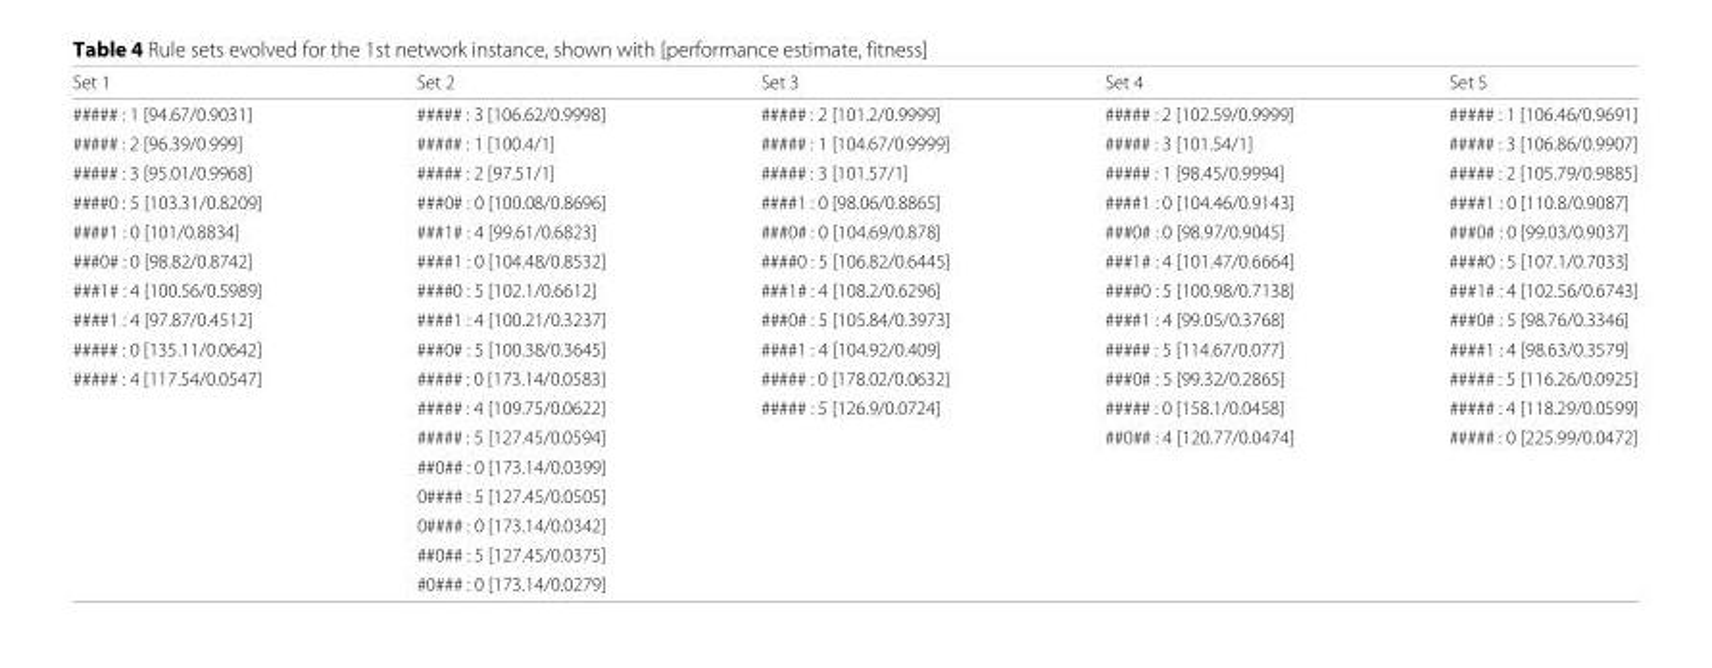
<table><thead><tr><td>Set 1</td><td>Set 2</td><td>Set 3</td><td>Set 4</td><td>Set 5</td></tr></thead><tbody><tr><td>##### : 1 [94.67/0.9031]</td><td>##### : 3 [106.62/0.9998]</td><td>##### : 2 [101.2/0.9999]</td><td>##### : 2 [102.59/0.9999]</td><td>##### : 1 [106.46/0.9691]</td></tr><tr><td>##### : 2 [96.39/0.999]</td><td>##### : 1 [100.4/1]</td><td>##### : 1 [104.67/0.9999]</td><td>##### : 3 [101.54/1]</td><td>##### : 3 [106.86/0.9907]</td></tr><tr><td>##### : 3 [95.01/0.9968]</td><td>##### : 2 [97.51/1]</td><td>##### : 3 [101.57/1]</td><td>##### : 1 [98.45/0.9994]</td><td>##### : 2 [105.79/0.9885]</td></tr><tr><td>####0 : 5 [103.31/0.8209]</td><td>###0# : 0 [100.08/0.8696]</td><td>####1 : 0 [98.06/0.8865]</td><td>####1 : 0 [104.46/0.9143]</td><td>####1 : 0 [110.8/0.9087]</td></tr><tr><td>####1 : 0 [101/0.8834]</td><td>###1# : 4 [99.61/0.6823]</td><td>###0# : 0 [104.69/0.878]</td><td>###0# : 0 [98.97/0.9045]</td><td>###0# : 0 [99.03/0.9037]</td></tr><tr><td>###0# : 0 [98.82/0.8742]</td><td>####1 : 0 [104.48/0.8532]</td><td>####0 : 5 [106.82/0.6445]</td><td>###1# : 4 [101.47/0.6664]</td><td>####0 : 5 [107.1/0.7033]</td></tr><tr><td>###1# : 4 [100.56/0.5989]</td><td>####0 : 5 [102.1/0.6612]</td><td>###1# : 4 [108.2/0.6296]</td><td>####0 : 5 [100.98/0.7138]</td><td>###1# : 4 [102.56/0.6743]</td></tr><tr><td>####1 : 4 [97.87/0.4512]</td><td>####1 : 4 [100.21/0.3237]</td><td>###0# : 5 [105.84/0.3973]</td><td>####1 : 4 [99.05/0.3768]</td><td>###0# : 5 [98.76/0.3346]</td></tr><tr><td>##### : 0 [135.11/0.0642]</td><td>###0# : 5 [100.38/0.3645]</td><td>####1 : 4 [104.92/0.409]</td><td>##### : 5 [114.67/0.077]</td><td>####1 : 4 [98.63/0.3579]</td></tr><tr><td rowspan="8">##### : 4 [117.54/0.0547]</td><td>##### : 0 [173.14/0.0583]</td><td>##### : 0 [178.02/0.0632]</td><td>###0# : 5 [99.32/0.2865]</td><td>##### : 5 [116.26/0.0925]</td></tr><tr><td>##### : 4 [109.75/0.0622]</td><td>##### : 5 [126.9/0.0724]</td><td>##### : 0 [158.1/0.0458]</td><td>##### : 4 [118.29/0.0599]</td></tr><tr><td>##### : 5 [127.45/0.0594]</td><td></td><td>##0## : 4 [120.77/0.0474]</td><td>##### : 0 [225.99/0.0472]</td></tr><tr><td>##0## : 0 [173.14/0.0399]</td><td></td><td></td><td></td></tr><tr><td>0#### : 5 [127.45/0.0505]</td><td></td><td></td><td></td></tr><tr><td>0#### : 0 [173.14/0.0342]</td><td></td><td></td><td></td></tr><tr><td>##0## : 5 [127.45/0.0375]</td><td></td><td></td><td></td></tr><tr><td>#0### : 0 [173.14/0.0279]</td><td></td><td></td><td></td></tr></tbody></table>